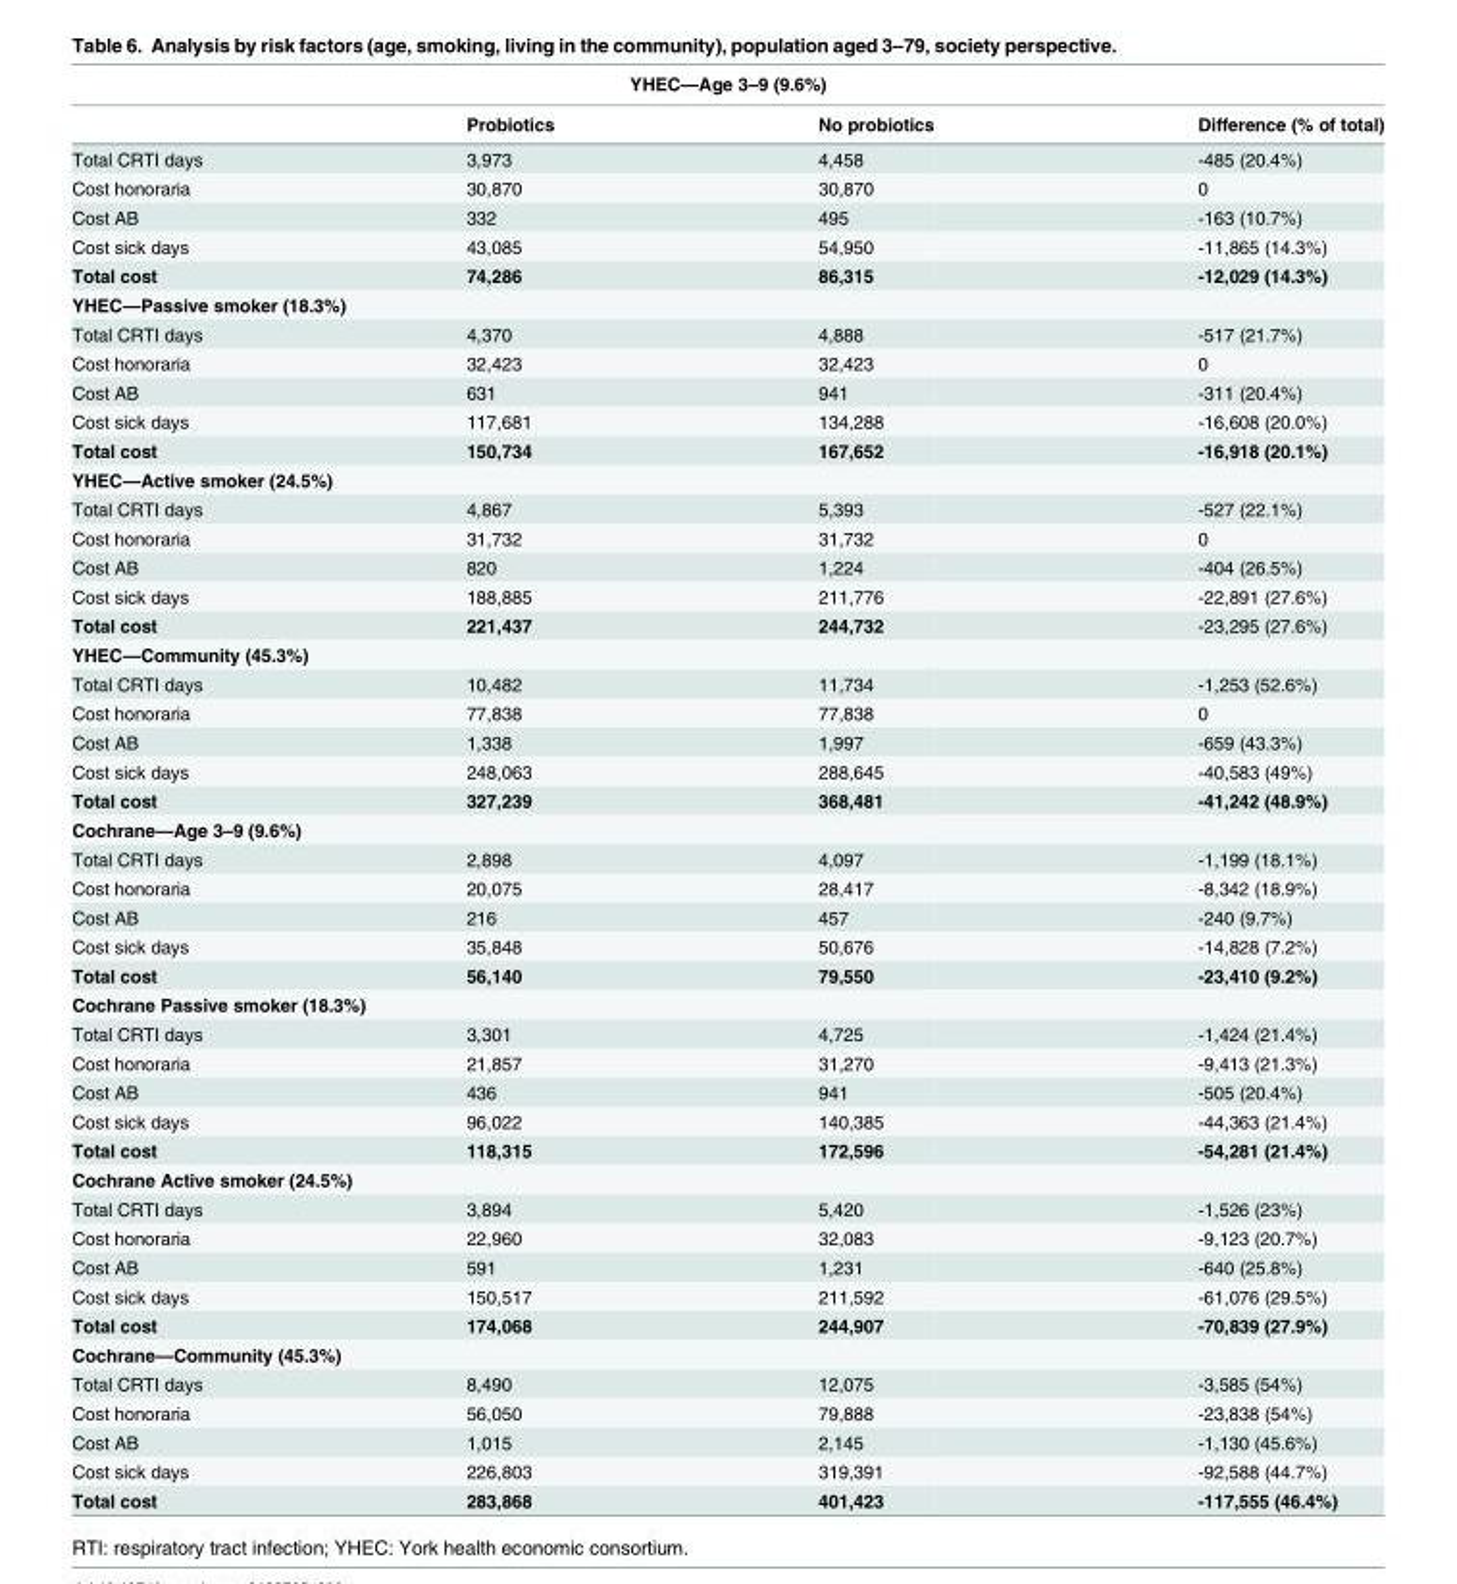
<table><thead><tr><td colspan="4">YHEC—Age 3–9 (9.6%)</td></tr><tr><td></td><td>Probiotics</td><td>No probiotics</td><td>Difference (% of total)</td></tr></thead><tbody><tr><td>Total CRTI days</td><td>3,973</td><td>4,458</td><td>-485 (20.4%)</td></tr><tr><td>Cost honoraria</td><td>30,870</td><td>30,870</td><td>0</td></tr><tr><td>Cost AB</td><td>332</td><td>495</td><td>-163 (10.7%)</td></tr><tr><td>Cost sick days</td><td>43,085</td><td>54,950</td><td>-11,865 (14.3%)</td></tr><tr><td>Total cost</td><td>74,286</td><td>86,315</td><td>-12,029 (14.3%)</td></tr><tr><td colspan="4">YHEC—Passive smoker (18.3%)</td></tr><tr><td>Total CRTI days</td><td>4,370</td><td>4,888</td><td>-517 (21.7%)</td></tr><tr><td>Cost honoraria</td><td>32,423</td><td>32,423</td><td>0</td></tr><tr><td>Cost AB</td><td>631</td><td>941</td><td>-311 (20.4%)</td></tr><tr><td>Cost sick days</td><td>117,681</td><td>134,288</td><td>-16,608 (20.0%)</td></tr><tr><td>Total cost</td><td>150,734</td><td>167,652</td><td>-16,918 (20.1%)</td></tr><tr><td colspan="4">YHEC—Active smoker (24.5%)</td></tr><tr><td>Total CRTI days</td><td>4,867</td><td>5,393</td><td>-527 (22.1%)</td></tr><tr><td>Cost honoraria</td><td>31,732</td><td>31,732</td><td>0</td></tr><tr><td>Cost AB</td><td>820</td><td>1,224</td><td>-404 (26.5%)</td></tr><tr><td>Cost sick days</td><td>188,885</td><td>211,776</td><td>-22,891 (27.6%)</td></tr><tr><td>Total cost</td><td>221,437</td><td>244,732</td><td>-23,295 (27.6%)</td></tr><tr><td colspan="4">YHEC—Community (45.3%)</td></tr><tr><td>Total CRTI days</td><td>10,482</td><td>11,734</td><td>-1,253 (52.6%)</td></tr><tr><td>Cost honoraria</td><td>77,838</td><td>77,838</td><td>0</td></tr><tr><td>Cost AB</td><td>1,338</td><td>1,997</td><td>-659 (43.3%)</td></tr><tr><td>Cost sick days</td><td>248,063</td><td>288,645</td><td>-40,583 (49%)</td></tr><tr><td>Total cost</td><td>327,239</td><td>368,481</td><td>-41,242 (48.9%)</td></tr><tr><td colspan="4">Cochrane—Age 3–9 (9.6%)</td></tr><tr><td>Total CRTI days</td><td>2,898</td><td>4,097</td><td>-1,199 (18.1%)</td></tr><tr><td>Cost honoraria</td><td>20,075</td><td>28,417</td><td>-8,342 (18.9%)</td></tr><tr><td>Cost AB</td><td>216</td><td>457</td><td>-240 (9.7%)</td></tr><tr><td>Cost sick days</td><td>35,848</td><td>50,676</td><td>-14,828 (7.2%)</td></tr><tr><td>Total cost</td><td>56,140</td><td>79,550</td><td>-23,410 (9.2%)</td></tr><tr><td colspan="4">Cochrane Passive smoker (18.3%)</td></tr><tr><td>Total CRTI days</td><td>3,301</td><td>4,725</td><td>-1,424 (21.4%)</td></tr><tr><td>Cost honoraria</td><td>21,857</td><td>31,270</td><td>-9,413 (21.3%)</td></tr><tr><td>Cost AB</td><td>436</td><td>941</td><td>-505 (20.4%)</td></tr><tr><td>Cost sick days</td><td>96,022</td><td>140,385</td><td>-44,363 (21.4%)</td></tr><tr><td>Total cost</td><td>118,315</td><td>172,596</td><td>-54,281 (21.4%)</td></tr><tr><td colspan="4">Cochrane Active smoker (24.5%)</td></tr><tr><td>Total CRTI days</td><td>3,894</td><td>5,420</td><td>-1,526 (23%)</td></tr><tr><td>Cost honoraria</td><td>22,960</td><td>32,083</td><td>-9,123 (20.7%)</td></tr><tr><td>Cost AB</td><td>591</td><td>1,231</td><td>-640 (25.8%)</td></tr><tr><td>Cost sick days</td><td>150,517</td><td>211,592</td><td>-61,076 (29.5%)</td></tr><tr><td>Total cost</td><td>174,068</td><td>244,907</td><td>-70,839 (27.9%)</td></tr><tr><td colspan="4">Cochrane—Community (45.3%)</td></tr><tr><td>Total CRTI days</td><td>8,490</td><td>12,075</td><td>-3,585 (54%)</td></tr><tr><td>Cost honoraria</td><td>56,050</td><td>79,888</td><td>-23,838 (54%)</td></tr><tr><td>Cost AB</td><td>1,015</td><td>2,145</td><td>-1,130 (45.6%)</td></tr><tr><td>Cost sick days</td><td>226,803</td><td>319,391</td><td>-92,588 (44.7%)</td></tr><tr><td>Total cost</td><td>283,868</td><td>401,423</td><td>-117,555 (46.4%)</td></tr></tbody></table>